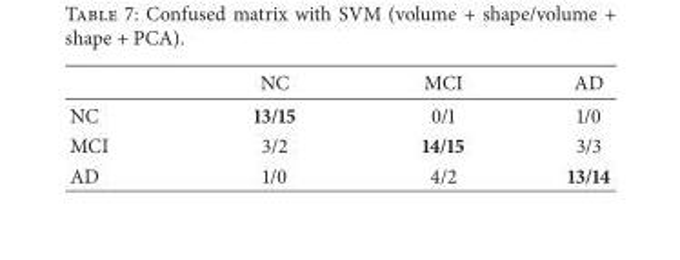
<table><thead><tr><td></td><td>NC</td><td>MCI</td><td>AD</td></tr></thead><tbody><tr><td>NC</td><td>13/15</td><td>0/1</td><td>1/0</td></tr><tr><td>MCI</td><td>3/2</td><td>14/15</td><td>3/3</td></tr><tr><td>AD</td><td>1/0</td><td>4/2</td><td>13/14</td></tr></tbody></table>